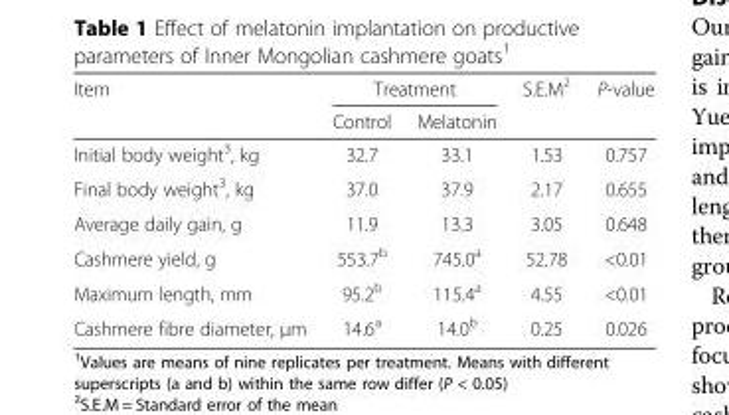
<table><thead><tr><td rowspan="2">Item</td><td colspan="2">Treatment</td><td rowspan="2">S.E.M<sup>2</sup></td><td rowspan="2">P-value</td></tr><tr><td>Control</td><td>Melatonin</td></tr></thead><tbody><tr><td>Initial body weight<sup>3</sup>, kg</td><td>32.7</td><td>33.1</td><td>1.53</td><td>0.757</td></tr><tr><td>Final body weight<sup>3</sup>, kg</td><td>37.0</td><td>37.9</td><td>2.17</td><td>0.655</td></tr><tr><td>Average daily gain, g</td><td>11.9</td><td>13.3</td><td>3.05</td><td>0.648</td></tr><tr><td>Cashmere yield, g</td><td>553.7<sup>b</sup></td><td>745.0<sup>a</sup></td><td>52.78</td><td>&lt;0.01</td></tr><tr><td>Maximum length, mm</td><td>95.2<sup>b</sup></td><td>115.4<sup>a</sup></td><td>4.55</td><td>&lt;0.01</td></tr><tr><td>Cashmere fibre diameter, μm</td><td>14.6<sup>a</sup></td><td>14.0<sup>b</sup></td><td>0.25</td><td>0.026</td></tr></tbody></table>